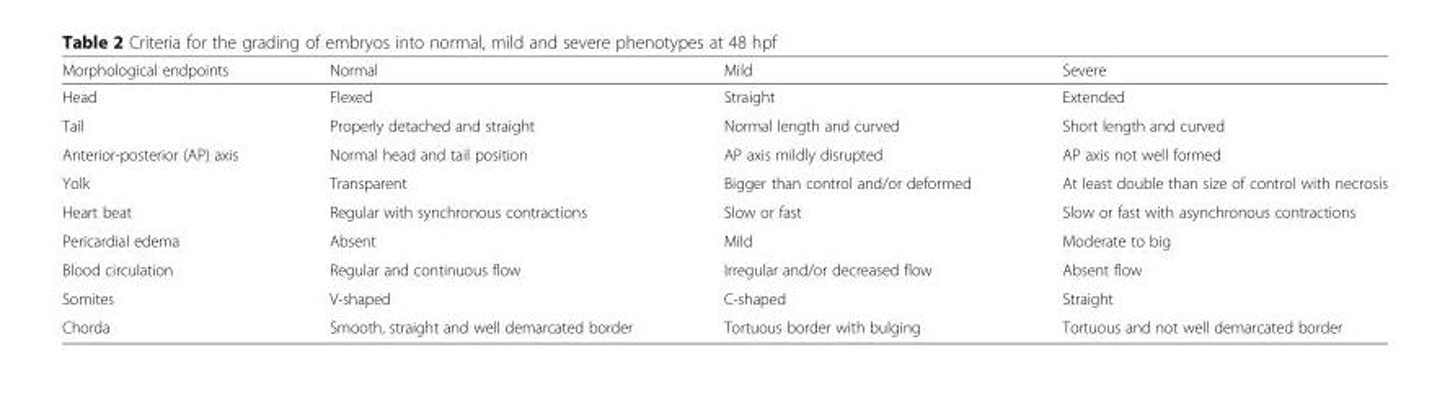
<table><thead><tr><td>Morphological endpoints</td><td>Normal</td><td>Mild</td><td>Severe</td></tr></thead><tbody><tr><td>Head</td><td>Flexed</td><td>Straight</td><td>Extended</td></tr><tr><td>Tail</td><td>Properly detached and straight</td><td>Normal length and curved</td><td>Short length and curved</td></tr><tr><td>Anterior-posterior (AP) axis</td><td>Normal head and tail position</td><td>AP axis mildly disrupted</td><td>AP axis not well formed</td></tr><tr><td>Yolk</td><td>Transparent</td><td>Bigger than control and/or deformed</td><td>At least double than size of control with necrosis</td></tr><tr><td>Heart beat</td><td>Regular with synchronous contractions</td><td>Slow or fast</td><td>Slow or fast with asynchronous contractions</td></tr><tr><td>Pericardial edema</td><td>Absent</td><td>Mild</td><td>Moderate to big</td></tr><tr><td>Blood circulation</td><td>Regular and continuous flow</td><td>Irregular and/or decreased flow</td><td>Absent flow</td></tr><tr><td>Somites</td><td>V-shaped</td><td>C-shaped</td><td>Straight</td></tr><tr><td>Chorda</td><td>Smooth, straight and well demarcated border</td><td>Tortuous border with bulging</td><td>Tortuous and not well demarcated border</td></tr></tbody></table>